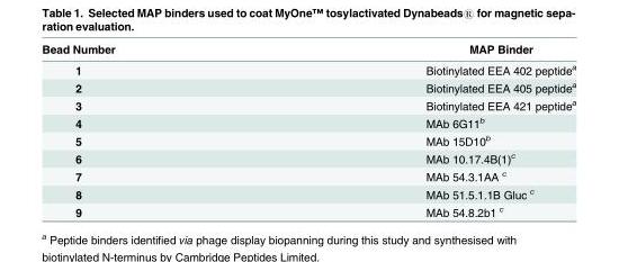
<table><thead><tr><td>Bead Number</td><td>MAP Binder</td></tr></thead><tbody><tr><td>1</td><td>Biotinylated EEA 402 peptide<sup>a</sup></td></tr><tr><td>2</td><td>Biotinylated EEA 405 peptide<sup>a</sup></td></tr><tr><td>3</td><td>Biotinylated EEA 421 peptide<sup>a</sup></td></tr><tr><td>4</td><td>MAb 6G11<sup>b</sup></td></tr><tr><td>5</td><td>MAb 15D10<sup>b</sup></td></tr><tr><td>6</td><td>MAb 10.17.4B(1)<sup>c</sup></td></tr><tr><td>7</td><td>MAb 54.3.1AA <sup>c</sup></td></tr><tr><td>8</td><td>MAb 51.5.1.1B Gluc <sup>c</sup></td></tr><tr><td>9</td><td>MAb 54.8.2b1 <sup>c</sup></td></tr></tbody></table>